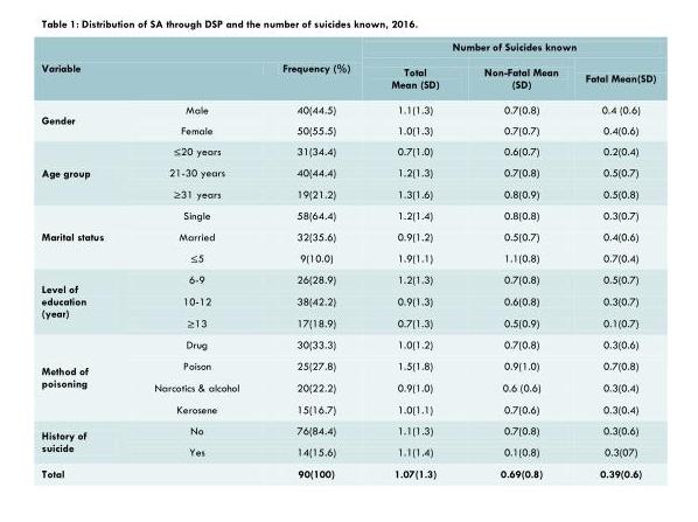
<table><thead><tr><td rowspan="2">Variable</td><td rowspan="2"></td><td rowspan="2">Frequency (%)</td><td colspan="3">Number of Suicides known</td></tr><tr><td>Total Mean (SD)</td><td>Non-Fatal Mean (SD)</td><td>Fatal Mean(SD)</td></tr></thead><tbody><tr><td rowspan="2">Gender</td><td>Male</td><td>40(44.5)</td><td>1.1(1.3)</td><td>0.7(0.8)</td><td>0.4 (0.6)</td></tr><tr><td>Female</td><td>50(55.5)</td><td>1.0(1.3)</td><td>0.7(0.7)</td><td>0.4(0.6)</td></tr><tr><td rowspan="3">Age group</td><td>≤20 years</td><td>31(34.4)</td><td>0.7(1.0)</td><td>0.6(0.7)</td><td>0.2(0.4)</td></tr><tr><td>21-30 years</td><td>40(44.4)</td><td>1.2(1.3)</td><td>0.7(0.8)</td><td>0.5(0.7)</td></tr><tr><td>≥31 years</td><td>19(21.2)</td><td>1.3(1.6)</td><td>0.8(0.9)</td><td>0.5(0.8)</td></tr><tr><td rowspan="3">Marital status</td><td>Single</td><td>58(64.4)</td><td>1.2(1.4)</td><td>0.8(0.8)</td><td>0.3(0.7)</td></tr><tr><td>Married</td><td>32(35.6)</td><td>0.9(1.2)</td><td>0.5(0.7)</td><td>0.4(0.6)</td></tr><tr><td>≤5</td><td>9(10.0)</td><td>1.9(1.1)</td><td>1.1(0.8)</td><td>0.7(0.4)</td></tr><tr><td rowspan="3">Level of education (year)</td><td>6-9</td><td>26(28.9)</td><td>1.2(1.3)</td><td>0.7(0.8)</td><td>0.5(0.7)</td></tr><tr><td>10-12</td><td>38(42.2)</td><td>0.9(1.3)</td><td>0.6(0.8)</td><td>0.3(0.7)</td></tr><tr><td>≥13</td><td>17(18.9)</td><td>0.7(1.3)</td><td>0.5(0.9)</td><td>0.1(0.7)</td></tr><tr><td rowspan="4">Method of poisoning</td><td>Drug</td><td>30(33.3)</td><td>1.0(1.2)</td><td>0.7(0.8)</td><td>0.3(0.6)</td></tr><tr><td>Poison</td><td>25(27.8)</td><td>1.5(1.8)</td><td>0.9(1.0)</td><td>0.7(0.8)</td></tr><tr><td>Narcotics &amp; alcohol</td><td>20(22.2)</td><td>0.9(1.0)</td><td>0.6 (0.6)</td><td>0.3(0.4)</td></tr><tr><td>Kerosene</td><td>15(16.7)</td><td>1.0(1.1)</td><td>0.7(0.6)</td><td>0.3(0.4)</td></tr><tr><td rowspan="2">History of suicide</td><td>No</td><td>76(84.4)</td><td>1.1(1.3)</td><td>0.7(0.8)</td><td>0.3(0.6)</td></tr><tr><td>Yes</td><td>14(15.6)</td><td>1.1(1.4)</td><td>0.1(0.8)</td><td>0.3(07)</td></tr><tr><td>Total</td><td></td><td>90(100)</td><td>1.07(1.3)</td><td>0.69(0.8)</td><td>0.39(0.6)</td></tr></tbody></table>